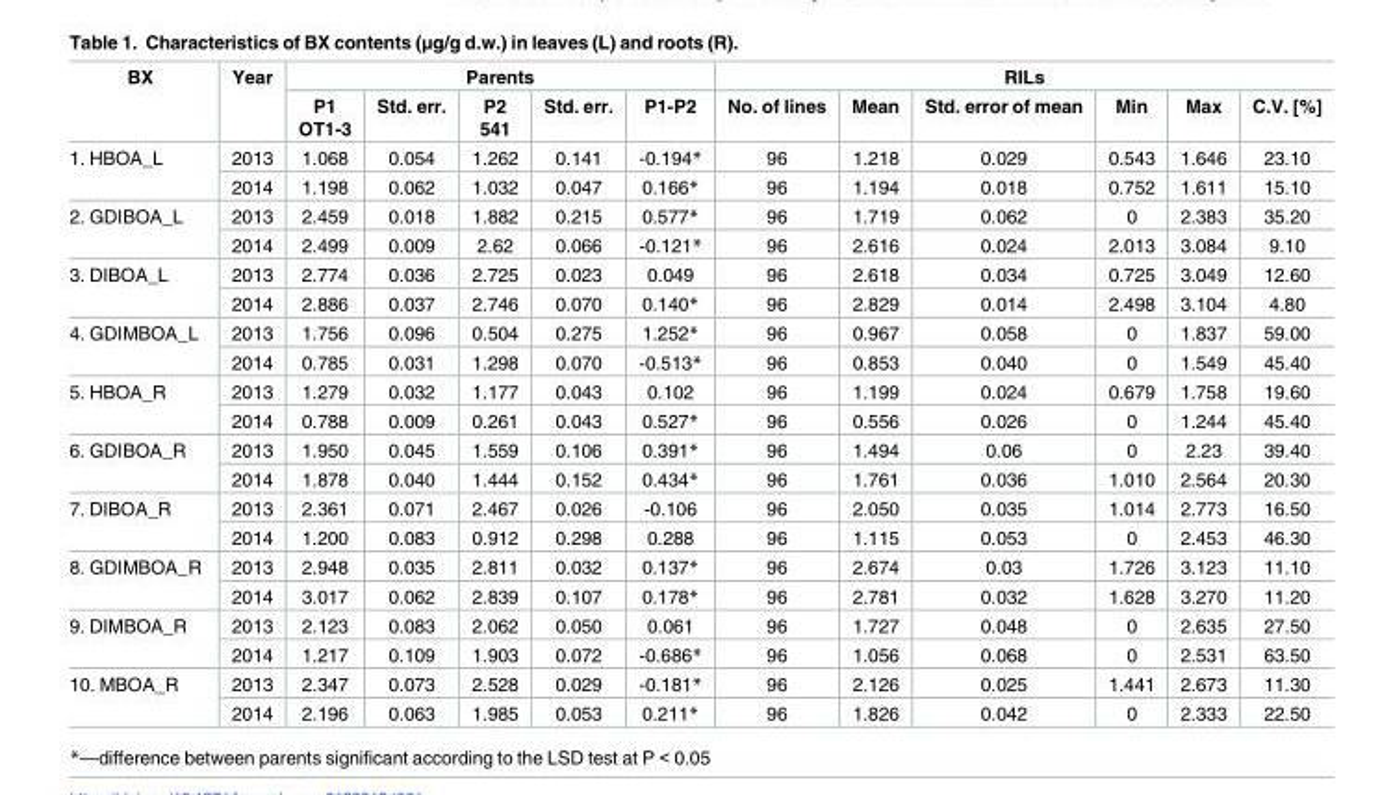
<table><thead><tr><td rowspan="2">BX</td><td rowspan="2">Year</td><td colspan="5">Parents</td><td colspan="6">RILs</td></tr><tr><td>P1 OT1-3</td><td>Std. err.</td><td>P2 541</td><td>Std. err.</td><td>P1-P2</td><td>No. of lines</td><td>Mean</td><td>Std. error of mean</td><td>Min</td><td>Max</td><td>C.V. [%]</td></tr></thead><tbody><tr><td rowspan="2">1. HBOA_L</td><td>2013</td><td>1.068</td><td>0.054</td><td>1.262</td><td>0.141</td><td>-0.194*</td><td>96</td><td>1.218</td><td>0.029</td><td>0.543</td><td>1.646</td><td>23.10</td></tr><tr><td>2014</td><td>1.198</td><td>0.062</td><td>1.032</td><td>0.047</td><td>0.166*</td><td>96</td><td>1.194</td><td>0.018</td><td>0.752</td><td>1.611</td><td>15.10</td></tr><tr><td rowspan="2">2. GDIBOA_L</td><td>2013</td><td>2.459</td><td>0.018</td><td>1.882</td><td>0.215</td><td>0.577*</td><td>96</td><td>1.719</td><td>0.062</td><td>0</td><td>2.383</td><td>35.20</td></tr><tr><td>2014</td><td>2.499</td><td>0.009</td><td>2.62</td><td>0.066</td><td>-0.121*</td><td>96</td><td>2.616</td><td>0.024</td><td>2.013</td><td>3.084</td><td>9.10</td></tr><tr><td rowspan="2">3. DIBOA_L</td><td>2013</td><td>2.774</td><td>0.036</td><td>2.725</td><td>0.023</td><td>0.049</td><td>96</td><td>2.618</td><td>0.034</td><td>0.725</td><td>3.049</td><td>12.60</td></tr><tr><td>2014</td><td>2.886</td><td>0.037</td><td>2.746</td><td>0.070</td><td>0.140*</td><td>96</td><td>2.829</td><td>0.014</td><td>2.498</td><td>3.104</td><td>4.80</td></tr><tr><td rowspan="2">4. GDIMBOA_L</td><td>2013</td><td>1.756</td><td>0.096</td><td>0.504</td><td>0.275</td><td>1.252*</td><td>96</td><td>0.967</td><td>0.058</td><td>0</td><td>1.837</td><td>59.00</td></tr><tr><td>2014</td><td>0.785</td><td>0.031</td><td>1.298</td><td>0.070</td><td>-0.513*</td><td>96</td><td>0.853</td><td>0.040</td><td>0</td><td>1.549</td><td>45.40</td></tr><tr><td rowspan="2">5. HBOA_R</td><td>2013</td><td>1.279</td><td>0.032</td><td>1.177</td><td>0.043</td><td>0.102</td><td>96</td><td>1.199</td><td>0.024</td><td>0.679</td><td>1.758</td><td>19.60</td></tr><tr><td>2014</td><td>0.788</td><td>0.009</td><td>0.261</td><td>0.043</td><td>0.527*</td><td>96</td><td>0.556</td><td>0.026</td><td>0</td><td>1.244</td><td>45.40</td></tr><tr><td rowspan="2">6. GDIBOA_R</td><td>2013</td><td>1.950</td><td>0.045</td><td>1.559</td><td>0.106</td><td>0.391*</td><td>96</td><td>1.494</td><td>0.06</td><td>0</td><td>2.23</td><td>39.40</td></tr><tr><td>2014</td><td>1.878</td><td>0.040</td><td>1.444</td><td>0.152</td><td>0.434*</td><td>96</td><td>1.761</td><td>0.036</td><td>1.010</td><td>2.564</td><td>20.30</td></tr><tr><td rowspan="2">7. DIBOA_R</td><td>2013</td><td>2.361</td><td>0.071</td><td>2.467</td><td>0.026</td><td>-0.106</td><td>96</td><td>2.050</td><td>0.035</td><td>1.014</td><td>2.773</td><td>16.50</td></tr><tr><td>2014</td><td>1.200</td><td>0.083</td><td>0.912</td><td>0.298</td><td>0.288</td><td>96</td><td>1.115</td><td>0.053</td><td>0</td><td>2.453</td><td>46.30</td></tr><tr><td rowspan="2">8. GDIMBOA_R</td><td>2013</td><td>2.948</td><td>0.035</td><td>2.811</td><td>0.032</td><td>0.137*</td><td>96</td><td>2.674</td><td>0.03</td><td>1.726</td><td>3.123</td><td>11.10</td></tr><tr><td>2014</td><td>3.017</td><td>0.062</td><td>2.839</td><td>0.107</td><td>0.178*</td><td>96</td><td>2.781</td><td>0.032</td><td>1.628</td><td>3.270</td><td>11.20</td></tr><tr><td rowspan="2">9. DIMBOA_R</td><td>2013</td><td>2.123</td><td>0.083</td><td>2.062</td><td>0.050</td><td>0.061</td><td>96</td><td>1.727</td><td>0.048</td><td>0</td><td>2.635</td><td>27.50</td></tr><tr><td>2014</td><td>1.217</td><td>0.109</td><td>1.903</td><td>0.072</td><td>-0.686*</td><td>96</td><td>1.056</td><td>0.068</td><td>0</td><td>2.531</td><td>63.50</td></tr><tr><td rowspan="2">10. MBOA_R</td><td>2013</td><td>2.347</td><td>0.073</td><td>2.528</td><td>0.029</td><td>-0.181*</td><td>96</td><td>2.126</td><td>0.025</td><td>1.441</td><td>2.673</td><td>11.30</td></tr><tr><td>2014</td><td>2.196</td><td>0.063</td><td>1.985</td><td>0.053</td><td>0.211*</td><td>96</td><td>1.826</td><td>0.042</td><td>0</td><td>2.333</td><td>22.50</td></tr></tbody></table>